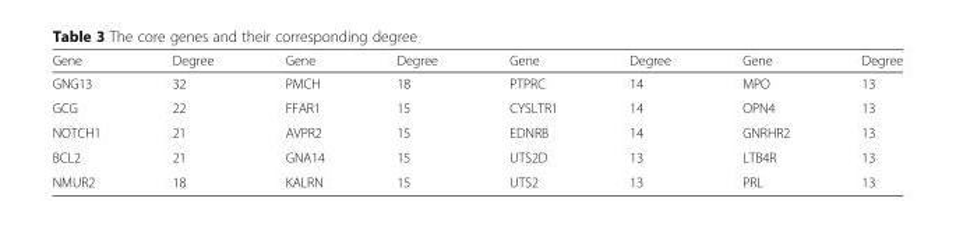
<table><thead><tr><td>Gene</td><td>Degree</td><td>Gene</td><td>Degree</td><td>Gene</td><td>Degree</td><td>Gene</td><td>Degree</td></tr></thead><tbody><tr><td>GNG13</td><td>32</td><td>PMCH</td><td>18</td><td>PTPRC</td><td>14</td><td>MPO</td><td>13</td></tr><tr><td>GCG</td><td>22</td><td>FFAR1</td><td>15</td><td>CYSLTR1</td><td>14</td><td>OPN4</td><td>13</td></tr><tr><td>NOTCH1</td><td>21</td><td>AVPR2</td><td>15</td><td>EDNRB</td><td>14</td><td>GNRHR2</td><td>13</td></tr><tr><td>BCL2</td><td>21</td><td>GNA14</td><td>15</td><td>UTS2D</td><td>13</td><td>LTB4R</td><td>13</td></tr><tr><td>NMUR2</td><td>18</td><td>KALRN</td><td>15</td><td>UTS2</td><td>13</td><td>PRL</td><td>13</td></tr></tbody></table>